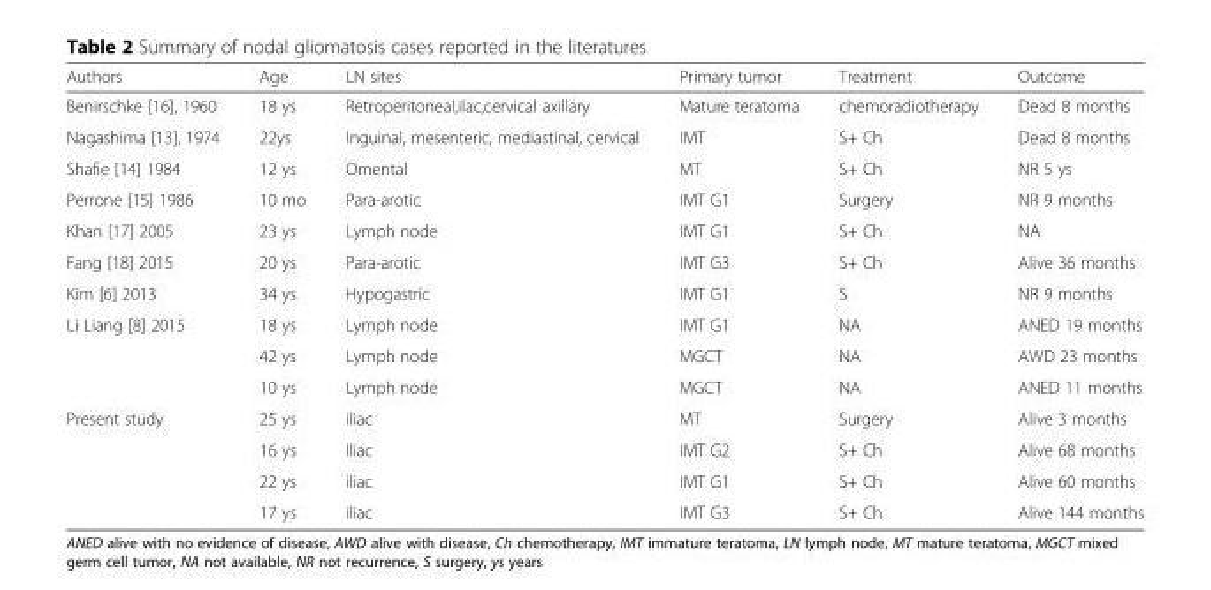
<table><thead><tr><td>Authors</td><td>Age</td><td>LN sites</td><td>Primary tumor</td><td>Treatment</td><td>Outcome</td></tr></thead><tbody><tr><td>Benirschke [16], 1960</td><td>18 ys</td><td>Retroperitoneal,ilac,cervical axillary</td><td>Mature teratoma</td><td>chemoradiotherapy</td><td>Dead 8 months</td></tr><tr><td>Nagashima [13], 1974</td><td>22ys</td><td>Inguinal, mesenteric, mediastinal, cervical</td><td>IMT</td><td>S+ Ch</td><td>Dead 8 months</td></tr><tr><td>Shafie [14] 1984</td><td>12 ys</td><td>Omental</td><td>MT</td><td>S+ Ch</td><td>NR 5 ys</td></tr><tr><td>Perrone [15] 1986</td><td>10 mo</td><td>Para-arotic</td><td>IMT G1</td><td>Surgery</td><td>NR 9 months</td></tr><tr><td>Khan [17] 2005</td><td>23 ys</td><td>Lymph node</td><td>IMT G1</td><td>S+ Ch</td><td>NA</td></tr><tr><td>Fang [18] 2015</td><td>20 ys</td><td>Para-arotic</td><td>IMT G3</td><td>S+ Ch</td><td>Alive 36 months</td></tr><tr><td>Kim [6] 2013</td><td>34 ys</td><td>Hypogastric</td><td>IMT G1</td><td>S</td><td>NR 9 months</td></tr><tr><td rowspan="3">Li Liang [8] 2015</td><td>18 ys</td><td>Lymph node</td><td>IMT G1</td><td>NA</td><td>ANED 19 months</td></tr><tr><td>42 ys</td><td>Lymph node</td><td>MGCT</td><td>NA</td><td>AWD 23 months</td></tr><tr><td>10 ys</td><td>Lymph node</td><td>MGCT</td><td>NA</td><td>ANED 11 months</td></tr><tr><td rowspan="4">Present study</td><td>25 ys</td><td>iliac</td><td>MT</td><td>Surgery</td><td>Alive 3 months</td></tr><tr><td>16 ys</td><td>Iliac</td><td>IMT G2</td><td>S+ Ch</td><td>Alive 68 months</td></tr><tr><td>22 ys</td><td>iliac</td><td>IMT G1</td><td>S+ Ch</td><td>Alive 60 months</td></tr><tr><td>17 ys</td><td>iliac</td><td>IMT G3</td><td>S+ Ch</td><td>Alive 144 months</td></tr></tbody></table>